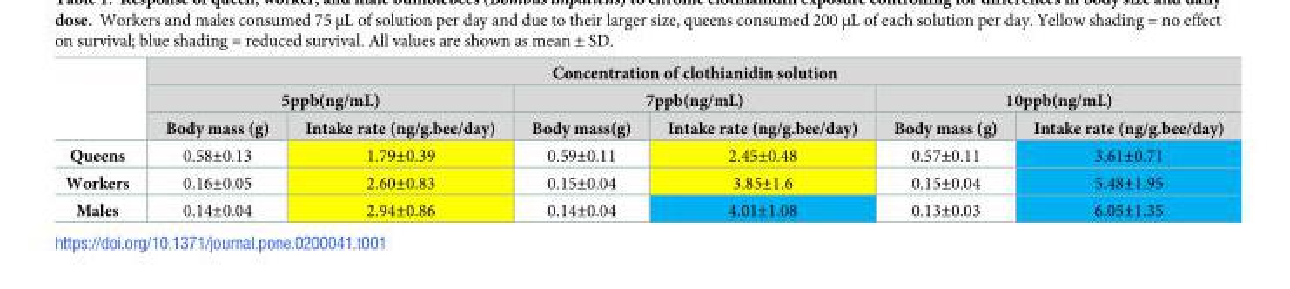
<table><thead><tr><td rowspan="3"></td><td colspan="6">Concentration of clothianidin solution</td></tr><tr><td colspan="2">5ppb(ng/mL)</td><td colspan="2">7ppb(ng/mL)</td><td colspan="2">10ppb(ng/mL)</td></tr><tr><td>Body mass (g)</td><td>Intake rate (ng/g.bee/day)</td><td>Body mass(g)</td><td>Intake rate (ng/g.bee/day)</td><td>Body mass (g)</td><td>Intake rate (ng/g.bee/day)</td></tr></thead><tbody><tr><td>Queens</td><td>0.58±0.13</td><td>1.79±0.39</td><td>0.59±0.11</td><td>2.45±0.48</td><td>0.57±0.11</td><td>3.61±0.71</td></tr><tr><td>Workers</td><td>0.16±0.05</td><td>2.60±0.83</td><td>0.15±0.04</td><td>3.85±1.6</td><td>0.15±0.04</td><td>5.48±1.95</td></tr><tr><td>Males</td><td>0.14±0.04</td><td>2.94±0.86</td><td>0.14±0.04</td><td>4.01±1.08</td><td>0.13±0.03</td><td>6.05±1.35</td></tr></tbody></table>